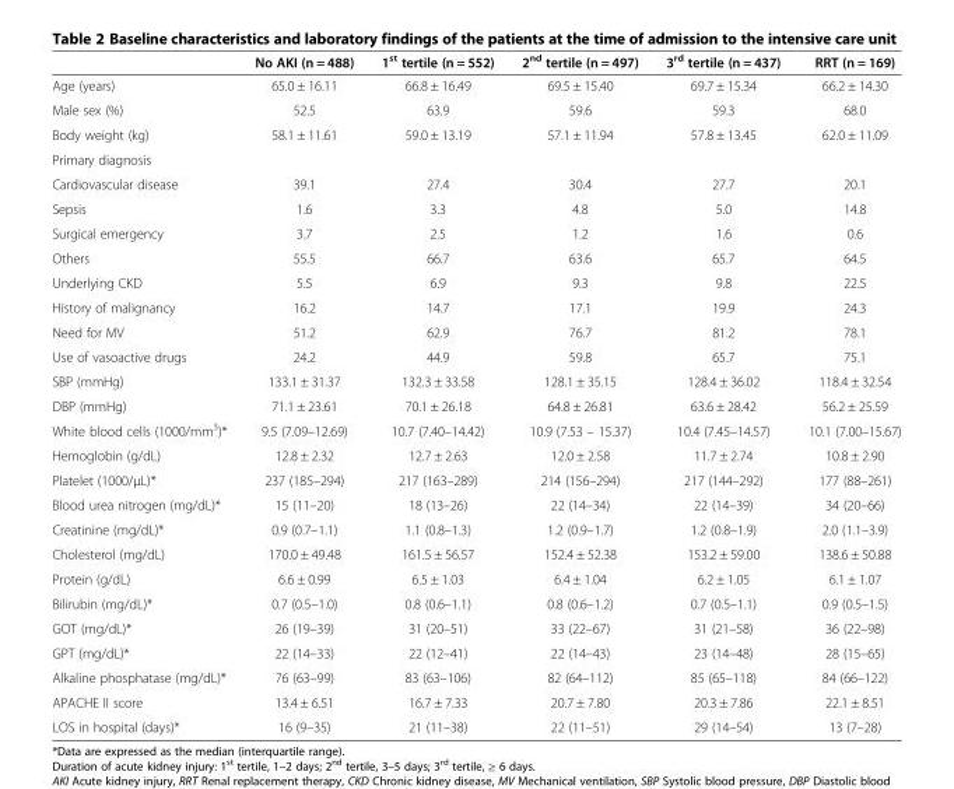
<table><thead><tr><td></td><td>No AKI (n = 488)</td><td>1<sup>st</sup> tertile (n = 552)</td><td>2<sup>nd</sup> tertile (n = 497)</td><td>3<sup>rd</sup> tertile (n = 437)</td><td>RRT (n = 169)</td></tr></thead><tbody><tr><td>Age (years)</td><td>65.0 ± 16.11</td><td>66.8 ± 16.49</td><td>69.5 ± 15.40</td><td>69.7 ± 15.34</td><td>66.2 ± 14.30</td></tr><tr><td>Male sex (%)</td><td>52.5</td><td>63.9</td><td>59.6</td><td>59.3</td><td>68.0</td></tr><tr><td>Body weight (kg)</td><td>58.1 ± 11.61</td><td>59.0 ± 13.19</td><td>57.1 ± 11.94</td><td>57.8 ± 13.45</td><td>62.0 ± 11.09</td></tr><tr><td colspan="6">Primary diagnosis</td></tr><tr><td>Cardiovascular disease</td><td>39.1</td><td>27.4</td><td>30.4</td><td>27.7</td><td>20.1</td></tr><tr><td>Sepsis</td><td>1.6</td><td>3.3</td><td>4.8</td><td>5.0</td><td>14.8</td></tr><tr><td>Surgical emergency</td><td>3.7</td><td>2.5</td><td>1.2</td><td>1.6</td><td>0.6</td></tr><tr><td>Others</td><td>55.5</td><td>66.7</td><td>63.6</td><td>65.7</td><td>64.5</td></tr><tr><td>Underlying CKD</td><td>5.5</td><td>6.9</td><td>9.3</td><td>9.8</td><td>22.5</td></tr><tr><td>History of malignancy</td><td>16.2</td><td>14.7</td><td>17.1</td><td>19.9</td><td>24.3</td></tr><tr><td>Need for MV</td><td>51.2</td><td>62.9</td><td>76.7</td><td>81.2</td><td>78.1</td></tr><tr><td>Use of vasoactive drugs</td><td>24.2</td><td>44.9</td><td>59.8</td><td>65.7</td><td>75.1</td></tr><tr><td>SBP (mmHg)</td><td>133.1 ± 31.37</td><td>132.3 ± 33.58</td><td>128.1 ± 35.15</td><td>128.4 ± 36.02</td><td>118.4 ± 32.54</td></tr><tr><td>DBP (mmHg)</td><td>71.1 ± 23.61</td><td>70.1 ± 26.18</td><td>64.8 ± 26.81</td><td>63.6 ± 28.42</td><td>56.2 ± 25.59</td></tr><tr><td>White blood cells (1000/mm<sup>3</sup>)*</td><td>9.5 (7.09–12.69)</td><td>10.7 (7.40–14.42)</td><td>10.9 (7.53 – 15.37)</td><td>10.4 (7.45–14.57)</td><td>10.1 (7.00–15.67)</td></tr><tr><td>Hemoglobin (g/dL)</td><td>12.8 ± 2.32</td><td>12.7 ± 2.63</td><td>12.0 ± 2.58</td><td>11.7 ± 2.74</td><td>10.8 ± 2.90</td></tr><tr><td>Platelet (1000/μL)*</td><td>237 (185–294)</td><td>217 (163–289)</td><td>214 (156–294)</td><td>217 (144–292)</td><td>177 (88–261)</td></tr><tr><td>Blood urea nitrogen (mg/dL)*</td><td>15 (11–20)</td><td>18 (13–26)</td><td>22 (14–34)</td><td>22 (14–39)</td><td>34 (20–66)</td></tr><tr><td>Creatinine (mg/dL)*</td><td>0.9 (0.7–1.1)</td><td>1.1 (0.8–1.3)</td><td>1.2 (0.9–1.7)</td><td>1.2 (0.8–1.9)</td><td>2.0 (1.1–3.9)</td></tr><tr><td>Cholesterol (mg/dL)</td><td>170.0 ± 49.48</td><td>161.5 ± 56.57</td><td>152.4 ± 52.38</td><td>153.2 ± 59.00</td><td>138.6 ± 50.88</td></tr><tr><td>Protein (g/dL)</td><td>6.6 ± 0.99</td><td>6.5 ± 1.03</td><td>6.4 ± 1.04</td><td>6.2 ± 1.05</td><td>6.1 ± 1.07</td></tr><tr><td>Bilirubin (mg/dL)*</td><td>0.7 (0.5–1.0)</td><td>0.8 (0.6–1.1)</td><td>0.8 (0.6–1.2)</td><td>0.7 (0.5–1.1)</td><td>0.9 (0.5–1.5)</td></tr><tr><td>GOT (mg/dL)*</td><td>26 (19–39)</td><td>31 (20–51)</td><td>33 (22–67)</td><td>31 (21–58)</td><td>36 (22–98)</td></tr><tr><td>GPT (mg/dL)*</td><td>22 (14–33)</td><td>22 (12–41)</td><td>22 (14–43)</td><td>23 (14–48)</td><td>28 (15–65)</td></tr><tr><td>Alkaline phosphatase (mg/dL)*</td><td>76 (63–99)</td><td>83 (63–106)</td><td>82 (64–112)</td><td>85 (65–118)</td><td>84 (66–122)</td></tr><tr><td>APACHE ІІ score</td><td>13.4 ± 6.51</td><td>16.7 ± 7.33</td><td>20.7 ± 7.80</td><td>20.3 ± 7.86</td><td>22.1 ± 8.51</td></tr><tr><td>LOS in hospital (days)*</td><td>16 (9–35)</td><td>21 (11–38)</td><td>22 (11–51)</td><td>29 (14–54)</td><td>13 (7–28)</td></tr></tbody></table>